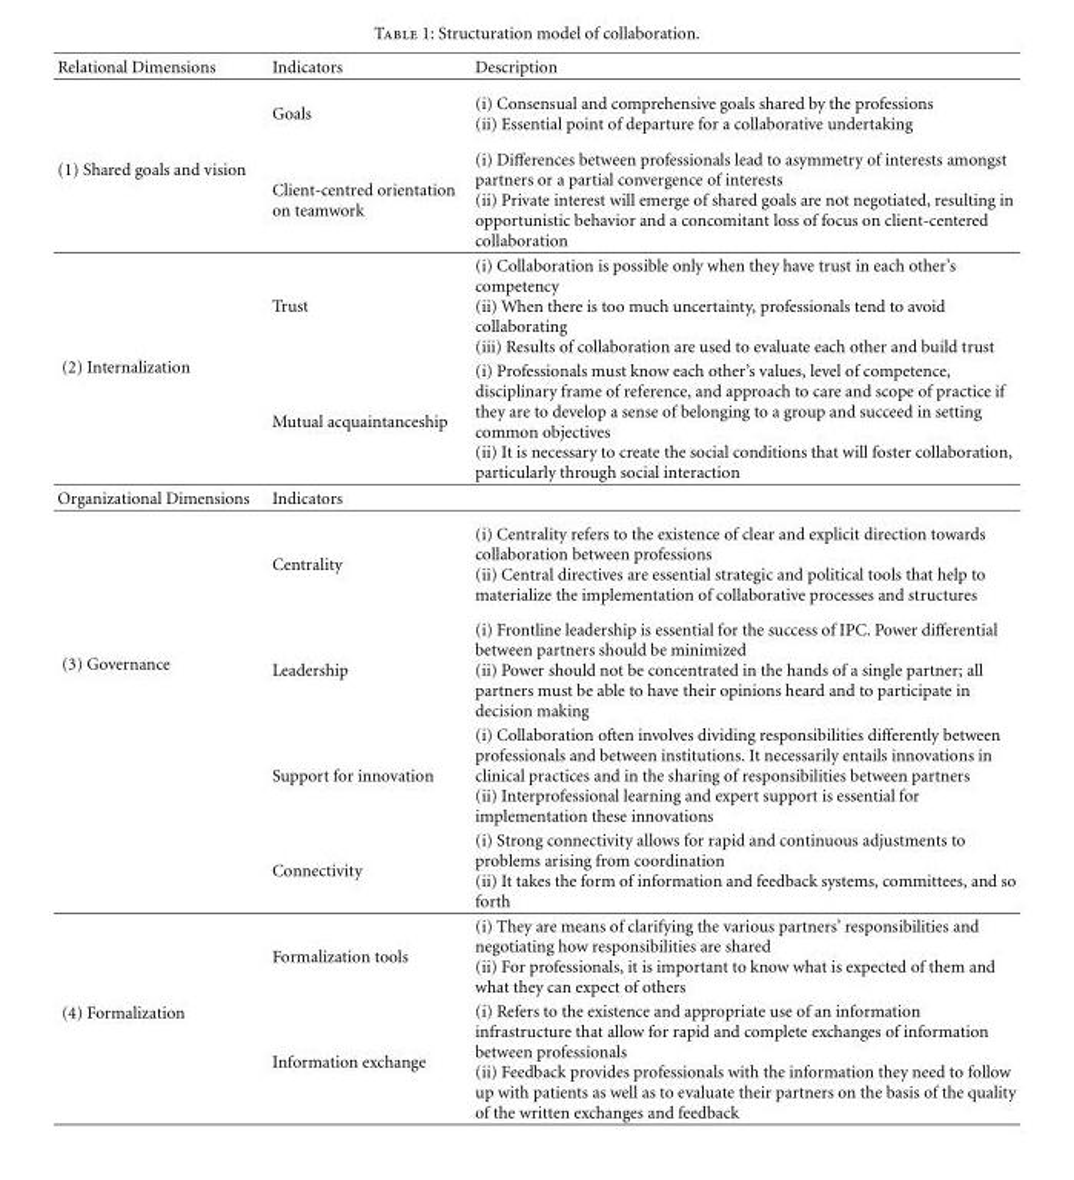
<table><thead><tr><td>Relational Dimensions</td><td>Indicators</td><td>Description</td></tr></thead><tbody><tr><td rowspan="2">(1) Shared goals and vision</td><td>Goals</td><td>(i) Consensual and comprehensive goals shared by the professions (ii) Essential point of departure for a collaborative undertaking</td></tr><tr><td>Client-centred orientation on teamwork</td><td>(i) Differences between professionals lead to asymmetry of interests amongst partners or a partial convergence of interests (ii) Private interest will emerge of shared goals are not negotiated, resulting in opportunistic behavior and a concomitant loss of focus on client-centered collaboration</td></tr><tr><td rowspan="2">(2) Internalization</td><td>Trust</td><td>(i) Collaboration is possible only when they have trust in each other’s competency (ii) When there is too much uncertainty, professionals tend to avoid collaborating (iii) Results of collaboration are used to evaluate each other and build trust</td></tr><tr><td>Mutual acquaintanceship</td><td>(i) Professionals must know each other’s values, level of competence, disciplinary frame of reference, and approach to care and scope of practice if they are to develop a sense of belonging to a group and succeed in setting common objectives (ii) It is necessary to create the social conditions that will foster collaboration, particularly through social interaction</td></tr><tr><td>Organizational Dimensions</td><td>Indicators</td><td></td></tr><tr><td rowspan="4">(3) Governance</td><td>Centrality</td><td>(i) Centrality refers to the existence of clear and explicit direction towards collaboration between professions (ii) Central directives are essential strategic and political tools that help to materialize the implementation of collaborative processes and structures</td></tr><tr><td>Leadership</td><td>(i) Frontline leadership is essential for the success of IPC. Power differential between partners should be minimized (ii) Power should not be concentrated in the hands of a single partner; all partners must be able to have their opinions heard and to participate in decision making</td></tr><tr><td>Support for innovation</td><td>(i) Collaboration often involves dividing responsibilities differently between professionals and between institutions. It necessarily entails innovations in clinical practices and in the sharing of responsibilities between partners (ii) Interprofessional learning and expert support is essential for implementation these innovations</td></tr><tr><td>Connectivity</td><td>(i) Strong connectivity allows for rapid and continuous adjustments to problems arising from coordination (ii) It takes the form of information and feedback systems, committees, and so forth</td></tr><tr><td rowspan="2">(4) Formalization</td><td>Formalization tools</td><td>(i) They are means of clarifying the various partners’ responsibilities and negotiating how responsibilities are shared (ii) For professionals, it is important to know what is expected of them and what they can expect of others</td></tr><tr><td>Information exchange</td><td>(i) Refers to the existence and appropriate use of an information infrastructure that allow for rapid and complete exchanges of information between professionals (ii) Feedback provides professionals with the information they need to follow up with patients as well as to evaluate their partners on the basis of the quality of the written exchanges and feedback</td></tr></tbody></table>